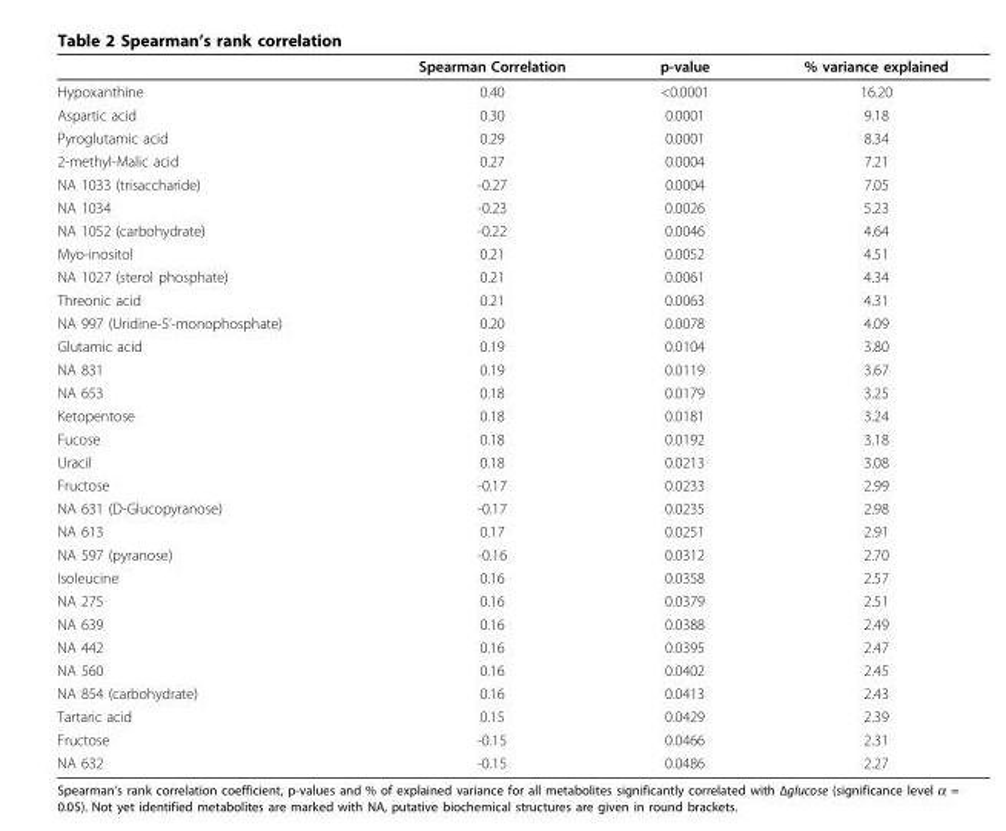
<table><thead><tr><td></td><td>Spearman Correlation</td><td>p-value</td><td>% variance explained</td></tr></thead><tbody><tr><td>Hypoxanthine</td><td>0.40</td><td>&lt;0.0001</td><td>16.20</td></tr><tr><td>Aspartic acid</td><td>0.30</td><td>0.0001</td><td>9.18</td></tr><tr><td>Pyroglutamic acid</td><td>0.29</td><td>0.0001</td><td>8.34</td></tr><tr><td>2-methyl-Malic acid</td><td>0.27</td><td>0.0004</td><td>7.21</td></tr><tr><td>NA 1033 (trisaccharide)</td><td>-0.27</td><td>0.0004</td><td>7.05</td></tr><tr><td>NA 1034</td><td>-0.23</td><td>0.0026</td><td>5.23</td></tr><tr><td>NA 1052 (carbohydrate)</td><td>-0.22</td><td>0.0046</td><td>4.64</td></tr><tr><td>Myo-inositol</td><td>0.21</td><td>0.0052</td><td>4.51</td></tr><tr><td>NA 1027 (sterol phosphate)</td><td>0.21</td><td>0.0061</td><td>4.34</td></tr><tr><td>Threonic acid</td><td>0.21</td><td>0.0063</td><td>4.31</td></tr><tr><td>NA 997 (Uridine-5’-monophosphate)</td><td>0.20</td><td>0.0078</td><td>4.09</td></tr><tr><td>Glutamic acid</td><td>0.19</td><td>0.0104</td><td>3.80</td></tr><tr><td>NA 831</td><td>0.19</td><td>0.0119</td><td>3.67</td></tr><tr><td>NA 653</td><td>0.18</td><td>0.0179</td><td>3.25</td></tr><tr><td>Ketopentose</td><td>0.18</td><td>0.0181</td><td>3.24</td></tr><tr><td>Fucose</td><td>0.18</td><td>0.0192</td><td>3.18</td></tr><tr><td>Uracil</td><td>0.18</td><td>0.0213</td><td>3.08</td></tr><tr><td>Fructose</td><td>-0.17</td><td>0.0233</td><td>2.99</td></tr><tr><td>NA 631 (D-Glucopyranose)</td><td>-0.17</td><td>0.0235</td><td>2.98</td></tr><tr><td>NA 613</td><td>0.17</td><td>0.0251</td><td>2.91</td></tr><tr><td>NA 597 (pyranose)</td><td>-0.16</td><td>0.0312</td><td>2.70</td></tr><tr><td>Isoleucine</td><td>0.16</td><td>0.0358</td><td>2.57</td></tr><tr><td>NA 275</td><td>0.16</td><td>0.0379</td><td>2.51</td></tr><tr><td>NA 639</td><td>0.16</td><td>0.0388</td><td>2.49</td></tr><tr><td>NA 442</td><td>0.16</td><td>0.0395</td><td>2.47</td></tr><tr><td>NA 560</td><td>0.16</td><td>0.0402</td><td>2.45</td></tr><tr><td>NA 854 (carbohydrate)</td><td>0.16</td><td>0.0413</td><td>2.43</td></tr><tr><td>Tartaric acid</td><td>0.15</td><td>0.0429</td><td>2.39</td></tr><tr><td>Fructose</td><td>-0.15</td><td>0.0466</td><td>2.31</td></tr><tr><td>NA 632</td><td>-0.15</td><td>0.0486</td><td>2.27</td></tr></tbody></table>